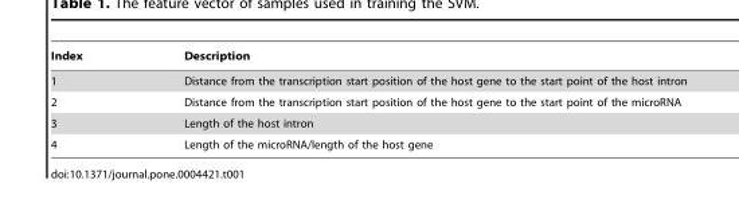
<table><thead><tr><td>Index</td><td>Description</td></tr></thead><tbody><tr><td>1</td><td>Distance from the transcription start position of the host gene to the start point of the host intron</td></tr><tr><td>2</td><td>Distance from the transcription start position of the host gene to the start point of the microRNA</td></tr><tr><td>3</td><td>Length of the host intron</td></tr><tr><td>4</td><td>Length of the microRNA/length of the host gene</td></tr></tbody></table>